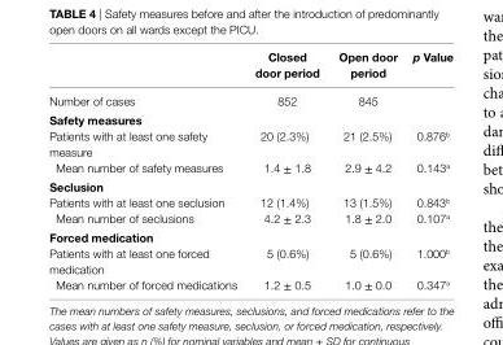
<table><thead><tr><td></td><td>closed door period</td><td>Open door period</td><td>p Value</td></tr></thead><tbody><tr><td>Number of cases</td><td>852</td><td>845</td><td></td></tr><tr><td colspan="4">safety measures</td></tr><tr><td>Patients with at least one safety measure</td><td>20 (2.3%)</td><td>21 (2.5%)</td><td>0.876<sup>b</sup></td></tr><tr><td>Mean number of safety measures</td><td>1.4 ± 1.8</td><td>2.9 ± 4.2</td><td>0.143<sup>a</sup></td></tr><tr><td colspan="4">seclusion</td></tr><tr><td>Patients with at least one seclusion</td><td>12 (1.4%)</td><td>13 (1.5%)</td><td>0.843<sup>b</sup></td></tr><tr><td>Mean number of seclusions</td><td>4.2 ± 2.3</td><td>1.8 ± 2.0</td><td>0.107<sup>a</sup></td></tr><tr><td colspan="4">Forced medication</td></tr><tr><td>Patients with at least one forced medication</td><td>5 (0.6%)</td><td>5 (0.6%)</td><td>1.000<sup>b</sup></td></tr><tr><td>Mean number of forced medications</td><td>1.2 ± 0.5</td><td>1.0 ± 0.0</td><td>0.347<sup>a</sup></td></tr></tbody></table>